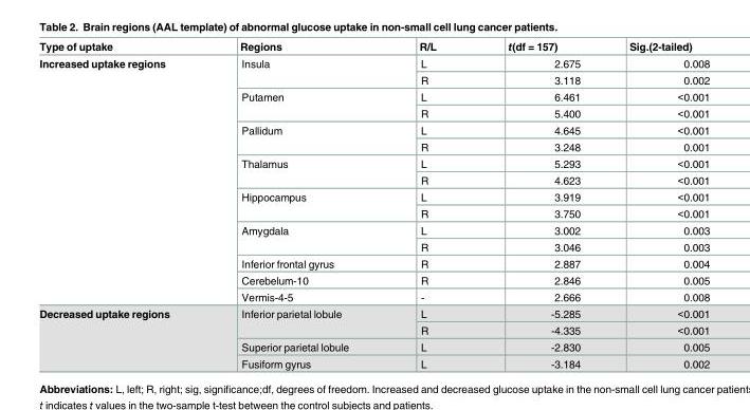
<table><thead><tr><td>Type of uptake</td><td>Regions</td><td>R/L</td><td>t(df = 157)</td><td>Sig.(2-tailed)</td></tr></thead><tbody><tr><td rowspan="15">Increased uptake regions</td><td rowspan="2">Insula</td><td>L</td><td>2.675</td><td>0.008</td></tr><tr><td>R</td><td>3.118</td><td>0.002</td></tr><tr><td rowspan="2">Putamen</td><td>L</td><td>6.461</td><td>&lt;0.001</td></tr><tr><td>R</td><td>5.400</td><td>&lt;0.001</td></tr><tr><td rowspan="2">Pallidum</td><td>L</td><td>4.645</td><td>&lt;0.001</td></tr><tr><td>R</td><td>3.248</td><td>0.001</td></tr><tr><td rowspan="2">Thalamus</td><td>L</td><td>5.293</td><td>&lt;0.001</td></tr><tr><td>R</td><td>4.623</td><td>&lt;0.001</td></tr><tr><td rowspan="2">Hippocampus</td><td>L</td><td>3.919</td><td>&lt;0.001</td></tr><tr><td>R</td><td>3.750</td><td>&lt;0.001</td></tr><tr><td rowspan="2">Amygdala</td><td>L</td><td>3.002</td><td>0.003</td></tr><tr><td>R</td><td>3.046</td><td>0.003</td></tr><tr><td>Inferior frontal gyrus</td><td>R</td><td>2.887</td><td>0.004</td></tr><tr><td>Cerebelum-10</td><td>R</td><td>2.846</td><td>0.005</td></tr><tr><td>Vermis-4-5</td><td>-</td><td>2.666</td><td>0.008</td></tr><tr><td rowspan="4">Decreased uptake regions</td><td rowspan="2">Inferior parietal lobule</td><td>L</td><td>-5.285</td><td>&lt;0.001</td></tr><tr><td>R</td><td>-4.335</td><td>&lt;0.001</td></tr><tr><td>Superior parietal lobule</td><td>L</td><td>-2.830</td><td>0.005</td></tr><tr><td>Fusiform gyrus</td><td>L</td><td>-3.184</td><td>0.002</td></tr></tbody></table>